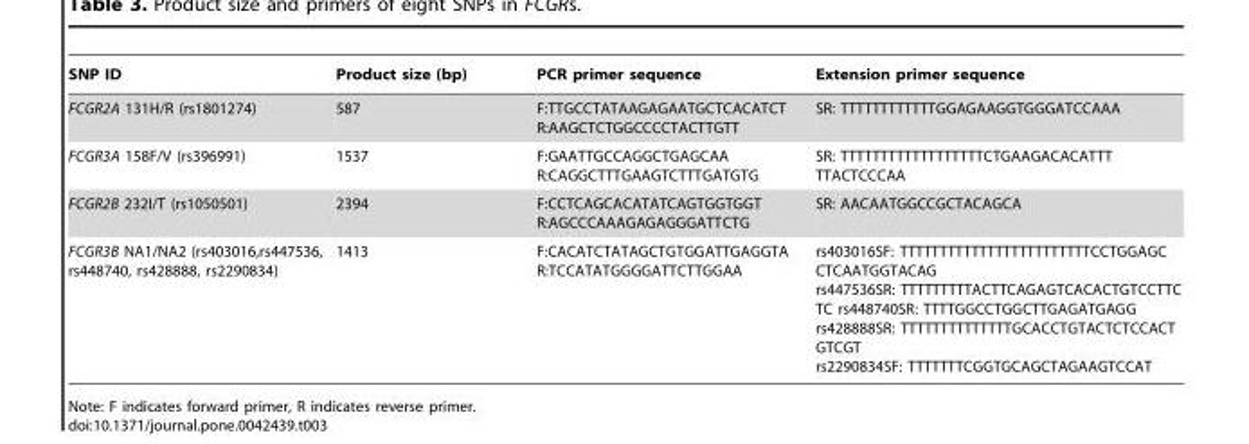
<table><thead><tr><td>SNP ID</td><td>Product size (bp)</td><td>PCR primer sequence</td><td>Extension primer sequence</td></tr></thead><tbody><tr><td>FCGR2A 131H/R (rs1801274)</td><td>587</td><td>F:TTGCCTATAAGAGAATGCTCACATCT R:AAGCTCTGGCCCCTACTTGTT</td><td>SR: TTTTTTTTTTTTGGAGAAGGTGGGATCCAAA</td></tr><tr><td>FCGR3A 158F/V (rs396991)</td><td>1537</td><td>F:GAATTGCCAGGCTGAGCAA R:CAGGCTTTGAAGTCTTTGATGTG</td><td>SR: TTTTTTTTTTTTTTTTTTCTGAAGACACATTT TTACTCCCAA</td></tr><tr><td>FCGR2B 232I/T (rs1050501)</td><td>2394</td><td>F:CCTCAGCACATATCAGTGGTGGT R:AGCCCAAAGAGAGGGATTCTG</td><td>SR: AACAATGGCCGCTACAGCA</td></tr><tr><td>FCGR3B NA1/NA2 (rs403016,rs447536, rs448740, rs428888, rs2290834)</td><td>1413</td><td>F:CACATCTATAGCTGTGGATTGAGGTA R:TCCATATGGGGATTCTTGGAA</td><td>rs403016SF: TTTTTTTTTTTTTTTTTTTTTTTTCCTGGAGC CTCAATGGTACAG rs447536SR: TTTTTTTTTACTTCAGAGTCACACTGTCCTTC TC rs448740SR: TTTTGGCCTGGCTTGAGATGAGG rs428888SR: TTTTTTTTTTTTTTGCACCTGTACTCTCCACT GTCGT rs2290834SF: TTTTTTTCGGTGCAGCTAGAAGTCCAT</td></tr></tbody></table>